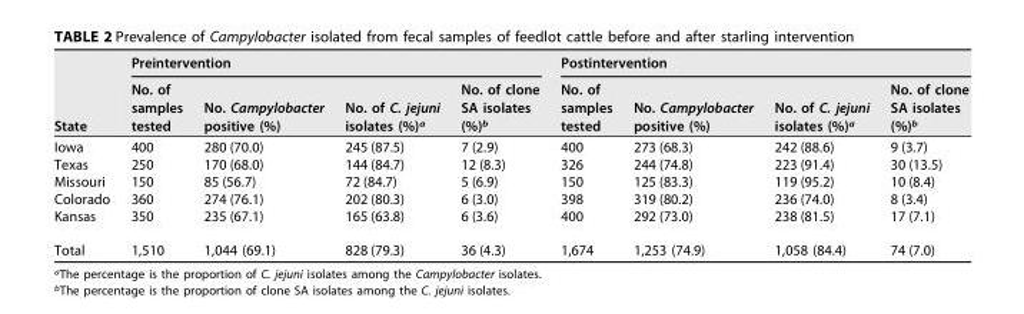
<table><thead><tr><td rowspan="2">State</td><td colspan="4">Preintervention</td><td colspan="4">Postintervention</td></tr><tr><td>No. of samples tested</td><td>No. Campylobacter positive (%)</td><td>No. of C. jejuni isolates (%)<sup>a</sup></td><td>No. of clone SA isolates (%)<sup>b</sup></td><td>No. of samples tested</td><td>No. Campylobacter positive (%)</td><td>No. of C. jejuni isolates (%)<sup>a</sup></td><td>No. of clone SA isolates (%)<sup>b</sup></td></tr></thead><tbody><tr><td>Iowa</td><td>400</td><td>280 (70.0)</td><td>245 (87.5)</td><td>7 (2.9)</td><td>400</td><td>273 (68.3)</td><td>242 (88.6)</td><td>9 (3.7)</td></tr><tr><td>Texas</td><td>250</td><td>170 (68.0)</td><td>144 (84.7)</td><td>12 (8.3)</td><td>326</td><td>244 (74.8)</td><td>223 (91.4)</td><td>30 (13.5)</td></tr><tr><td>Missouri</td><td>150</td><td>85 (56.7)</td><td>72 (84.7)</td><td>5 (6.9)</td><td>150</td><td>125 (83.3)</td><td>119 (95.2)</td><td>10 (8.4)</td></tr><tr><td>Colorado</td><td>360</td><td>274 (76.1)</td><td>202 (80.3)</td><td>6 (3.0)</td><td>398</td><td>319 (80.2)</td><td>236 (74.0)</td><td>8 (3.4)</td></tr><tr><td>Kansas</td><td>350</td><td>235 (67.1)</td><td>165 (63.8)</td><td>6 (3.6)</td><td>400</td><td>292 (73.0)</td><td>238 (81.5)</td><td>17 (7.1)</td></tr><tr><td>Total</td><td>1,510</td><td>1,044 (69.1)</td><td>828 (79.3)</td><td>36 (4.3)</td><td>1,674</td><td>1,253 (74.9)</td><td>1,058 (84.4)</td><td>74 (7.0)</td></tr></tbody></table>